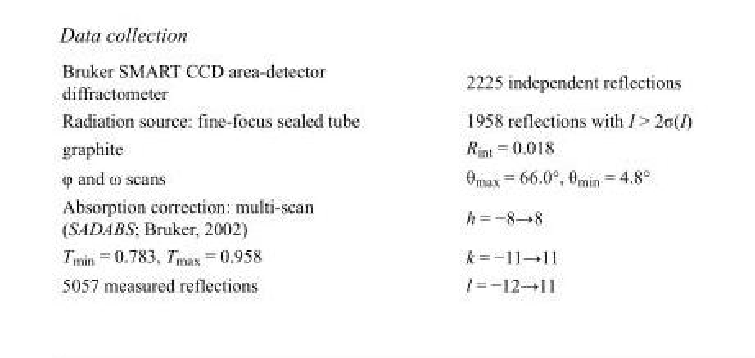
<table><tbody><tr><td>Bruker SMART CCD area-detector diffractometer</td><td>2225 independent reflections</td></tr><tr><td>Radiation source: fine-focus sealed tube</td><td>1958 reflections with I &gt; 2σ(I)</td></tr><tr><td>graphite</td><td>R<sub>int</sub> = 0.018</td></tr><tr><td>φ and ω scans</td><td>θ<sub>max</sub> = 66.0°, θ<sub>min</sub> = 4.8°</td></tr><tr><td>Absorption correction: multi-scan (SADABS; Bruker, 2002)</td><td>h = −8→8</td></tr><tr><td>T<sub>min</sub> = 0.783, T<sub>max</sub> = 0.958</td><td>k = −11→11</td></tr><tr><td>5057 measured reflections</td><td>l = −12→11</td></tr></tbody></table>